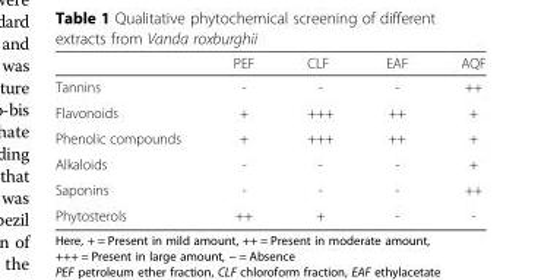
<table><thead><tr><td></td><td>PEF</td><td>CLF</td><td>EAF</td><td>AQF</td></tr></thead><tbody><tr><td>Tannins</td><td>-</td><td>-</td><td>-</td><td>++</td></tr><tr><td>Flavonoids</td><td>+</td><td>+++</td><td>++</td><td>+</td></tr><tr><td>Phenolic compounds</td><td>+</td><td>+++</td><td>++</td><td>+</td></tr><tr><td>Alkaloids</td><td>-</td><td>-</td><td>-</td><td>+</td></tr><tr><td>Saponins</td><td>-</td><td>-</td><td>-</td><td>++</td></tr><tr><td>Phytosterols</td><td>++</td><td>+</td><td>-</td><td>-</td></tr></tbody></table>